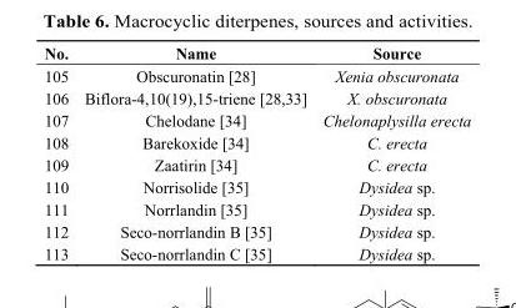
<table><thead><tr><td>No.</td><td>Name</td><td>Source</td></tr></thead><tbody><tr><td>105</td><td>Obscuronatin [28]</td><td>Xenia obscuronata</td></tr><tr><td>106</td><td>Biflora-4,10(19),15-triene [28,33]</td><td>X. obscuronata</td></tr><tr><td>107</td><td>Chelodane [34]</td><td>Chelonaplysilla erecta</td></tr><tr><td>108</td><td>Barekoxide [34]</td><td>C. erecta</td></tr><tr><td>109</td><td>Zaatirin [34]</td><td>C. erecta</td></tr><tr><td>110</td><td>Norrisolide [35]</td><td>Dysidea sp.</td></tr><tr><td>111</td><td>Norrlandin [35]</td><td>Dysidea sp.</td></tr><tr><td>112</td><td>Seco-norrlandin B [35]</td><td>Dysidea sp.</td></tr><tr><td>113</td><td>Seco-norrlandin C [35]</td><td>Dysidea sp.</td></tr></tbody></table>